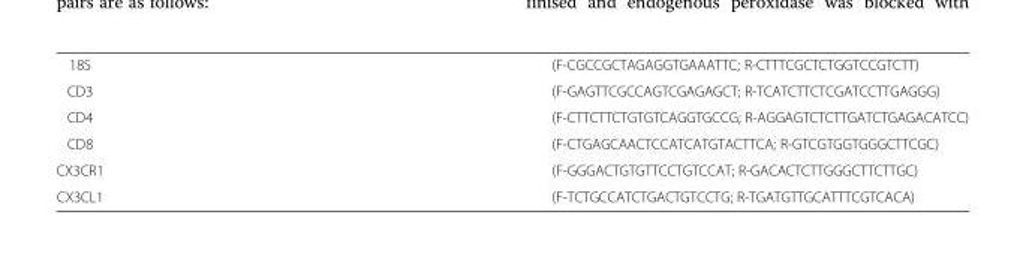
<table><tbody><tr><td>18S</td><td>(F-CGCCGCTAGAGGTGAAATTC; R-CTTTCGCTCTGGTCCGTCTT)</td></tr><tr><td>CD3</td><td>(F-GAGTTCGCCAGTCGAGAGCT; R-TCATCTTCTCGATCCTTGAGGG)</td></tr><tr><td>CD4</td><td>(F-CTTCTTCTGTGTCAGGTGCCG; R-AGGAGTCTCTTGATCTGAGACATCC)</td></tr><tr><td>CD8</td><td>(F-CTGAGCAACTCCATCATGTACTTCA; R-GTCGTGGTGGGCTTCGC)</td></tr><tr><td>CX3CR1</td><td>(F-GGGACTGTGTTCCTGTCCAT; R-GACACTCTTGGGCTTCTTGC)</td></tr><tr><td>CX3CL1</td><td>(F-TCTGCCATCTGACTGTCCTG; R-TGATGTTGCATTTCGTCACA)</td></tr></tbody></table>